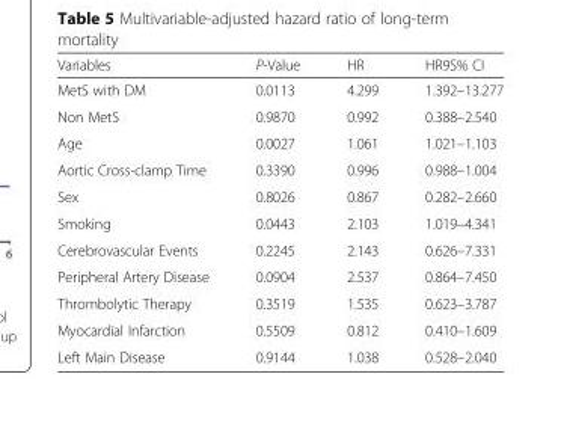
<table><thead><tr><td>Variables</td><td>P-Value</td><td>HR</td><td>HR9S% CI</td></tr></thead><tbody><tr><td>MetS with DM</td><td>0.0113</td><td>4.299</td><td>1.392–13.277</td></tr><tr><td>Non MetS</td><td>0.9870</td><td>0.992</td><td>0.388–2.540</td></tr><tr><td>Age</td><td>0.0027</td><td>1.061</td><td>1.021–1.103</td></tr><tr><td>Aortic Cross-clamp Time</td><td>0.3390</td><td>0.996</td><td>0.988–1.004</td></tr><tr><td>Sex</td><td>0.8026</td><td>0.867</td><td>0.282–2.660</td></tr><tr><td>Smoking</td><td>0.0443</td><td>2.103</td><td>1.019–4.341</td></tr><tr><td>Cerebrovascular Events</td><td>0.2245</td><td>2.143</td><td>0.626–7.331</td></tr><tr><td>Peripheral Artery Disease</td><td>0.0904</td><td>2.537</td><td>0.864–7.450</td></tr><tr><td>Thrombolytic Therapy</td><td>0.3519</td><td>1.535</td><td>0.623–3.787</td></tr><tr><td>Myocardial Infarction</td><td>0.5509</td><td>0.812</td><td>0.410–1.609</td></tr><tr><td>Left Main Disease</td><td>0.9144</td><td>1.038</td><td>0.528–2.040</td></tr></tbody></table>